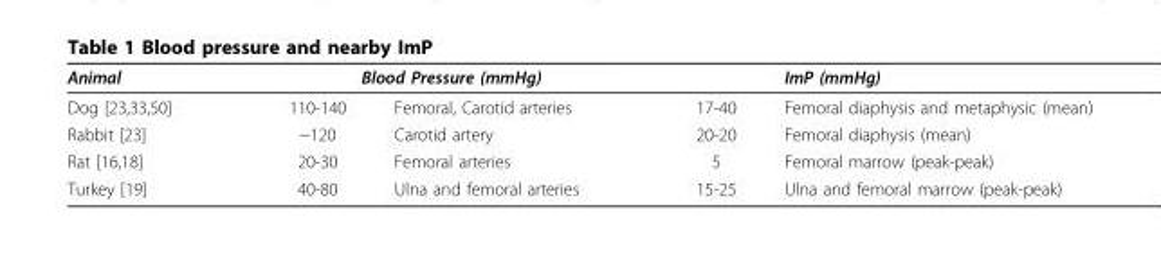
<table><thead><tr><td rowspan="2">Animal Dog [23,33,50]</td><td colspan="2">Blood Pressure (mmHg)</td><td rowspan="2">17-40</td><td rowspan="2">ImP (mmHg) Femoral diaphysis and metaphysic (mean)</td></tr><tr><td>110-140</td><td>Femoral, Carotid arteries</td></tr></thead><tbody><tr><td>Rabbit [23]</td><td>~120</td><td>Carotid artery</td><td>20-20</td><td>Femoral diaphysis (mean)</td></tr><tr><td>Rat [16,18]</td><td>20-30</td><td>Femoral arteries</td><td>5</td><td>Femoral marrow (peak-peak)</td></tr><tr><td>Turkey [19]</td><td>40-80</td><td>Ulna and femoral arteries</td><td>15-25</td><td>Ulna and femoral marrow (peak-peak)</td></tr></tbody></table>